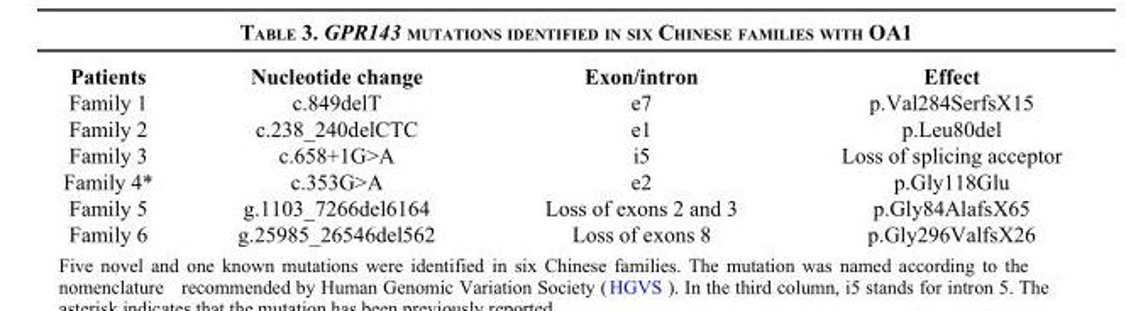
<table><thead><tr><td>Patients</td><td>Nucleotide change</td><td>Exon/intron</td><td>Effect</td></tr></thead><tbody><tr><td>Family 1</td><td>c.849delT</td><td>e7</td><td>p.Val284SerfsX15</td></tr><tr><td>Family 2</td><td>c.238_240delCTC</td><td>e1</td><td>p.Leu80del</td></tr><tr><td>Family 3</td><td>c.658+1G&gt;A</td><td>i5</td><td>Loss of splicing acceptor</td></tr><tr><td>Family 4*</td><td>c.353G&gt;A</td><td>e2</td><td>p.Gly118Glu</td></tr><tr><td>Family 5</td><td>g.1103_7266del6164</td><td>Loss of exons 2 and 3</td><td>p.Gly84AlafsX65</td></tr><tr><td>Family 6</td><td>g.25985_26546del562</td><td>Loss of exons 8</td><td>p.Gly296ValfsX26</td></tr></tbody></table>